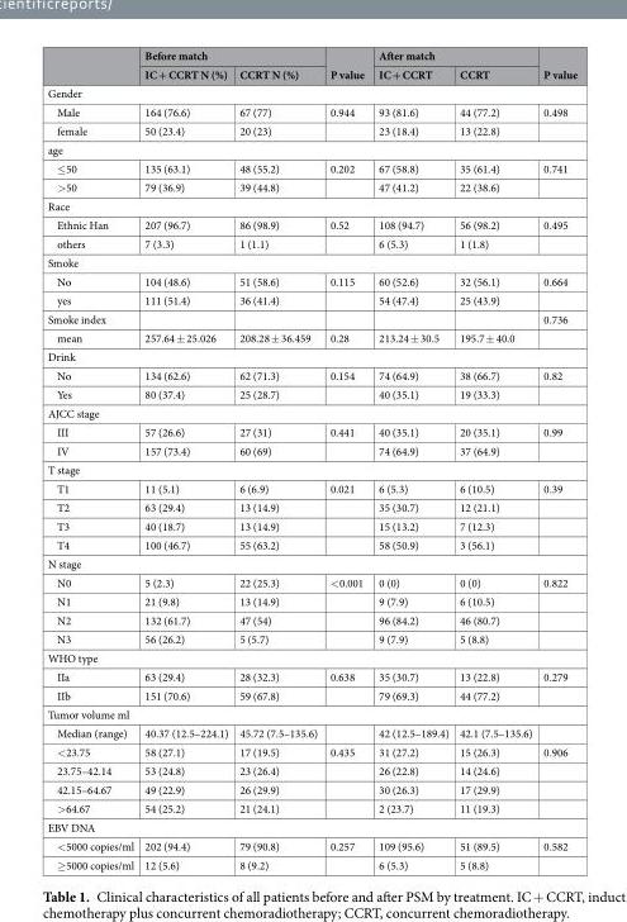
<table><thead><tr><td rowspan="2"></td><td colspan="2">Before match</td><td rowspan="2">P value</td><td colspan="2">After match</td><td rowspan="2">P value</td></tr><tr><td>IC + CCRT N (%)</td><td>CCRT N (%)</td><td>IC + CCRT</td><td>CCRT</td></tr></thead><tbody><tr><td colspan="7">Gender</td></tr><tr><td>Male</td><td>164 (76.6)</td><td>67 (77)</td><td>0.944</td><td>93 (81.6)</td><td>44 (77.2)</td><td>0.498</td></tr><tr><td>female</td><td>50 (23.4)</td><td>20 (23)</td><td></td><td>23 (18.4)</td><td>13 (22.8)</td><td></td></tr><tr><td colspan="7">age</td></tr><tr><td>≤50</td><td>135 (63.1)</td><td>48 (55.2)</td><td>0.202</td><td>67 (58.8)</td><td>35 (61.4)</td><td>0.741</td></tr><tr><td>&gt;50</td><td>79 (36.9)</td><td>39 (44.8)</td><td></td><td>47 (41.2)</td><td>22 (38.6)</td><td></td></tr><tr><td colspan="7">Race</td></tr><tr><td>Ethnic Han</td><td>207 (96.7)</td><td>86 (98.9)</td><td>0.52</td><td>108 (94.7)</td><td>56 (98.2)</td><td>0.495</td></tr><tr><td>others</td><td>7 (3.3)</td><td>1 (1.1)</td><td></td><td>6 (5.3)</td><td>1 (1.8)</td><td></td></tr><tr><td colspan="7">Smoke</td></tr><tr><td>No</td><td>104 (48.6)</td><td>51 (58.6)</td><td>0.115</td><td>60 (52.6)</td><td>32 (56.1)</td><td>0.664</td></tr><tr><td>yes</td><td>111 (51.4)</td><td>36 (41.4)</td><td></td><td>54 (47.4)</td><td>25 (43.9)</td><td></td></tr><tr><td>Smoke index</td><td></td><td></td><td></td><td></td><td></td><td>0.736</td></tr><tr><td>mean</td><td>257.64 ± 25.026</td><td>208.28 ± 36.459</td><td>0.28</td><td>213.24 ± 30.5</td><td>195.7 ± 40.0</td><td></td></tr><tr><td colspan="7">Drink</td></tr><tr><td>No</td><td>134 (62.6)</td><td>62 (71.3)</td><td>0.154</td><td>74 (64.9)</td><td>38 (66.7)</td><td>0.82</td></tr><tr><td>Yes</td><td>80 (37.4)</td><td>25 (28.7)</td><td></td><td>40 (35.1)</td><td>19 (33.3)</td><td></td></tr><tr><td colspan="7">AJCC stage</td></tr><tr><td>III</td><td>57 (26.6)</td><td>27 (31)</td><td>0.441</td><td>40 (35.1)</td><td>20 (35.1)</td><td>0.99</td></tr><tr><td>IV</td><td>157 (73.4)</td><td>60 (69)</td><td></td><td>74 (64.9)</td><td>37 (64.9)</td><td></td></tr><tr><td colspan="7">T stage</td></tr><tr><td>T1</td><td>11 (5.1)</td><td>6 (6.9)</td><td>0.021</td><td>6 (5.3)</td><td>6 (10.5)</td><td>0.39</td></tr><tr><td>T2</td><td>63 (29.4)</td><td>13 (14.9)</td><td></td><td>35 (30.7)</td><td>12 (21.1)</td><td></td></tr><tr><td>T3</td><td>40 (18.7)</td><td>13 (14.9)</td><td></td><td>15 (13.2)</td><td>7 (12.3)</td><td></td></tr><tr><td>T4</td><td>100 (46.7)</td><td>55 (63.2)</td><td></td><td>58 (50.9)</td><td>3 (56.1)</td><td></td></tr><tr><td colspan="7">N stage</td></tr><tr><td>N0</td><td>5 (2.3)</td><td>22 (25.3)</td><td>&lt;0.001</td><td>0 (0)</td><td>0 (0)</td><td>0.822</td></tr><tr><td>N1</td><td>21 (9.8)</td><td>13 (14.9)</td><td></td><td>9 (7.9)</td><td>6 (10.5)</td><td></td></tr><tr><td>N2</td><td>132 (61.7)</td><td>47 (54)</td><td></td><td>96 (84.2)</td><td>46 (80.7)</td><td></td></tr><tr><td>N3</td><td>56 (26.2)</td><td>5 (5.7)</td><td></td><td>9 (7.9)</td><td>5 (8.8)</td><td></td></tr><tr><td colspan="7">WHO type</td></tr><tr><td>IIa</td><td>63 (29.4)</td><td>28 (32.3)</td><td>0.638</td><td>35 (30.7)</td><td>13 (22.8)</td><td>0.279</td></tr><tr><td>IIb</td><td>151 (70.6)</td><td>59 (67.8)</td><td></td><td>79 (69.3)</td><td>44 (77.2)</td><td></td></tr><tr><td colspan="7">Tumor volume ml</td></tr><tr><td>Median (range)</td><td>40.37 (12.5–224.1)</td><td>45.72 (7.5–135.6)</td><td></td><td>42 (12.5–189.4)</td><td>42.1 (7.5–135.6)</td><td></td></tr><tr><td>&lt;23.75</td><td>58 (27.1)</td><td>17 (19.5)</td><td>0.435</td><td>31 (27.2)</td><td>15 (26.3)</td><td>0.906</td></tr><tr><td>23.75–42.14</td><td>53 (24.8)</td><td>23 (26.4)</td><td></td><td>26 (22.8)</td><td>14 (24.6)</td><td></td></tr><tr><td>42.15–64.67</td><td>49 (22.9)</td><td>26 (29.9)</td><td></td><td>30 (26.3)</td><td>17 (29.9)</td><td></td></tr><tr><td>&gt;64.67</td><td>54 (25.2)</td><td>21 (24.1)</td><td></td><td>2 (23.7)</td><td>11 (19.3)</td><td></td></tr><tr><td colspan="7">EBV DNA</td></tr><tr><td>&lt;5000 copies/ml</td><td>202 (94.4)</td><td>79 (90.8)</td><td>0.257</td><td>109 (95.6)</td><td>51 (89.5)</td><td>0.582</td></tr><tr><td>≥5000 copies/ml</td><td>12 (5.6)</td><td>8 (9.2)</td><td></td><td>6 (5.3)</td><td>5 (8.8)</td><td></td></tr></tbody></table>